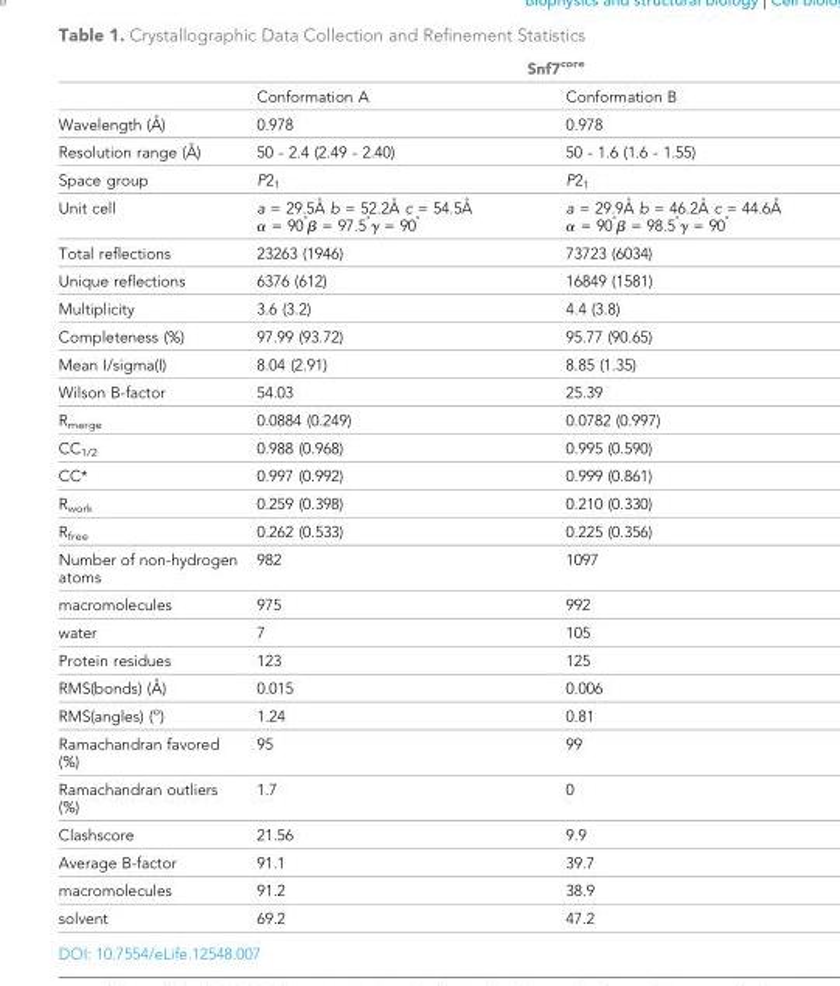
<table><thead><tr><td rowspan="2"></td><td colspan="2">Snf7<sup>core</sup></td></tr><tr><td>Conformation A</td><td>Conformation B</td></tr></thead><tbody><tr><td>Wavelength (A˚ )</td><td>0.978</td><td>0.978</td></tr><tr><td>Resolution range (A˚ )</td><td>50 - 2.4 (2.49 - 2.40)</td><td>50 - 1.6 (1.6 - 1.55)</td></tr><tr><td>Space group</td><td>P2<sub>1</sub></td><td>P2<sub>1</sub></td></tr><tr><td>Unit cell</td><td>a = 29.5A˚ b = 52.2A˚ c = 54.5A˚ a = 90˚b = 97.5˚g = 90˚</td><td>a = 29.9A˚ b = 46.2A˚ c = 44.6A˚ a = 90˚b = 98.5˚g = 90˚</td></tr><tr><td>Total reflections</td><td>23263 (1946)</td><td>73723 (6034)</td></tr><tr><td>Unique reflections</td><td>6376 (612)</td><td>16849 (1581)</td></tr><tr><td>Multiplicity</td><td>3.6 (3.2)</td><td>4.4 (3.8)</td></tr><tr><td>Completeness (%)</td><td>97.99 (93.72)</td><td>95.77 (90.65)</td></tr><tr><td>Mean I/sigma(I)</td><td>8.04 (2.91)</td><td>8.85 (1.35)</td></tr><tr><td>Wilson B-factor</td><td>54.03</td><td>25.39</td></tr><tr><td>R<sub>merge</sub></td><td>0.0884 (0.249)</td><td>0.0782 (0.997)</td></tr><tr><td>CC<sub>1/2</sub></td><td>0.988 (0.968)</td><td>0.995 (0.590)</td></tr><tr><td>CC*</td><td>0.997 (0.992)</td><td>0.999 (0.861)</td></tr><tr><td>R<sub>work</sub></td><td>0.259 (0.398)</td><td>0.210 (0.330)</td></tr><tr><td>R<sub>free</sub></td><td>0.262 (0.533)</td><td>0.225 (0.356)</td></tr><tr><td>Number of non-hydrogen atoms</td><td>982</td><td>1097</td></tr><tr><td>macromolecules</td><td>975</td><td>992</td></tr><tr><td>water</td><td>7</td><td>105</td></tr><tr><td>Protein residues</td><td>123</td><td>125</td></tr><tr><td>RMS(bonds) (A˚ )</td><td>0.015</td><td>0.006</td></tr><tr><td>RMS(angles) (<sup>o</sup>)</td><td>1.24</td><td>0.81</td></tr><tr><td>Ramachandran favored (%)</td><td>95</td><td>99</td></tr><tr><td>Ramachandran outliers (%)</td><td>1.7</td><td>0</td></tr><tr><td>Clashscore</td><td>21.56</td><td>9.9</td></tr><tr><td>Average B-factor</td><td>91.1</td><td>39.7</td></tr><tr><td>macromolecules</td><td>91.2</td><td>38.9</td></tr><tr><td>solvent</td><td>69.2</td><td>47.2</td></tr></tbody></table>